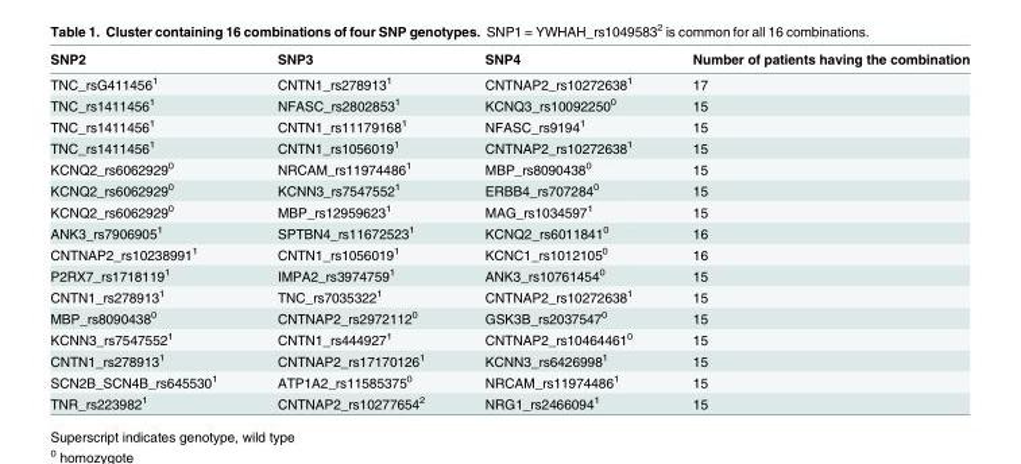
<table><thead><tr><td>SNP2</td><td>SNP3</td><td>SNP4</td><td>Number of patients having the combination</td></tr></thead><tbody><tr><td>TNC_rsG411456<sup>1</sup></td><td>CNTN1_rs278913<sup>1</sup></td><td>CNTNAP2_rs10272638<sup>1</sup></td><td>17</td></tr><tr><td>TNC_rs1411456<sup>1</sup></td><td>NFASC_rs2802853<sup>1</sup></td><td>KCNQ3_rs10092250<sup>0</sup></td><td>15</td></tr><tr><td>TNC_rs1411456<sup>1</sup></td><td>CNTN1_rs11179168<sup>1</sup></td><td>NFASC_rs9194<sup>1</sup></td><td>15</td></tr><tr><td>TNC_rs1411456<sup>1</sup></td><td>CNTN1_rs1056019<sup>1</sup></td><td>CNTNAP2_rs10272638<sup>1</sup></td><td>15</td></tr><tr><td>KCNQ2_rs6062929<sup>0</sup></td><td>NRCAM_rs11974486<sup>1</sup></td><td>MBP_rs8090438<sup>0</sup></td><td>15</td></tr><tr><td>KCNQ2_rs6062929<sup>0</sup></td><td>KCNN3_rs7547552<sup>1</sup></td><td>ERBB4_rs707284<sup>0</sup></td><td>15</td></tr><tr><td>KCNQ2_rs6062929<sup>0</sup></td><td>MBP_rs12959623<sup>1</sup></td><td>MAG_rs1034597<sup>1</sup></td><td>15</td></tr><tr><td>ANK3_rs7906905<sup>1</sup></td><td>SPTBN4_rs11672523<sup>1</sup></td><td>KCNQ2_rs6011841<sup>0</sup></td><td>16</td></tr><tr><td>CNTNAP2_rs10238991<sup>1</sup></td><td>CNTN1_rs1056019<sup>1</sup></td><td>KCNC1_rs1012105<sup>0</sup></td><td>16</td></tr><tr><td>P2RX7_rs1718119<sup>1</sup></td><td>IMPA2_rs3974759<sup>1</sup></td><td>ANK3_rs10761454<sup>0</sup></td><td>15</td></tr><tr><td>CNTN1_rs278913<sup>1</sup></td><td>TNC_rs7035322<sup>1</sup></td><td>CNTNAP2_rs10272638<sup>1</sup></td><td>15</td></tr><tr><td>MBP_rs8090438<sup>0</sup></td><td>CNTNAP2_rs2972112<sup>0</sup></td><td>GSK3B_rs2037547<sup>0</sup></td><td>15</td></tr><tr><td>KCNN3_rs7547552<sup>1</sup></td><td>CNTN1_rs444927<sup>1</sup></td><td>CNTNAP2_rs10464461<sup>0</sup></td><td>15</td></tr><tr><td>CNTN1_rs278913<sup>1</sup></td><td>CNTNAP2_rs17170126<sup>1</sup></td><td>KCNN3_rs6426998<sup>1</sup></td><td>15</td></tr><tr><td>SCN2B_SCN4B_rs645530<sup>1</sup></td><td>ATP1A2_rs11585375<sup>0</sup></td><td>NRCAM_rs11974486<sup>1</sup></td><td>15</td></tr><tr><td>TNR_rs223982<sup>1</sup></td><td>CNTNAP2_rs10277654<sup>2</sup></td><td>NRG1_rs2466094<sup>1</sup></td><td>15</td></tr></tbody></table>